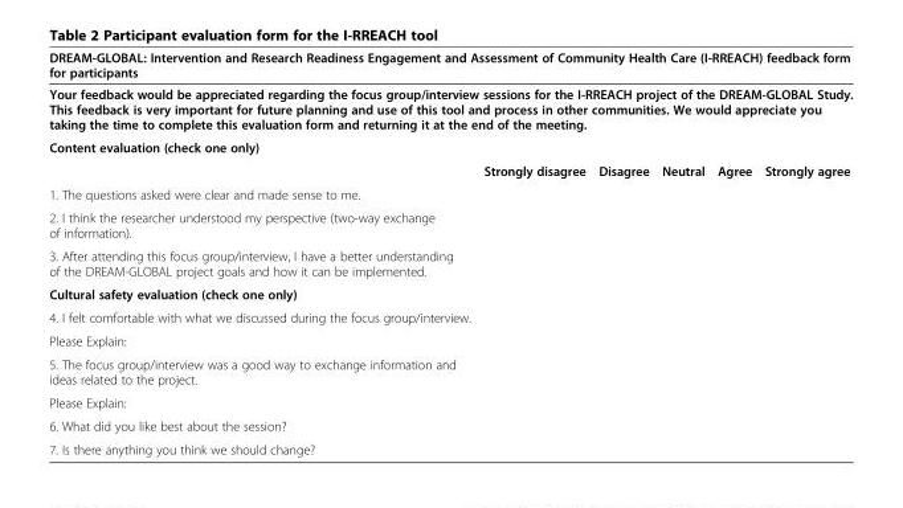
<table><thead><tr><td rowspan="3" colspan="6">DREAM-GLOBAL: Intervention and Research Readiness Engagement and Assessment of Community Health Care (I-RREACH) feedback form for participants Your feedback would be appreciated regarding the focus group/interview sessions for the I-RREACH project of the DREAM-GLOBAL Study. This feedback is very important for future planning and use of this tool and process in other communities. We would appreciate you taking the time to complete this evaluation form and returning it at the end of the meeting. Content evaluation (check one only)</td></tr><tr></tr><tr></tr><tr><td></td><td>Strongly disagree</td><td>Disagree</td><td>Neutral</td><td>Agree</td><td>Strongly agree</td></tr></thead><tbody><tr><td colspan="6">1. The questions asked were clear and made sense to me.</td></tr><tr><td colspan="6">2. I think the researcher understood my perspective (two-way exchange of information).</td></tr><tr><td colspan="6">3. After attending this focus group/interview, I have a better understanding of the DREAM-GLOBAL project goals and how it can be implemented.</td></tr><tr><td colspan="6">Cultural safety evaluation (check one only)</td></tr><tr><td colspan="6">4. I felt comfortable with what we discussed during the focus group/interview.</td></tr><tr><td colspan="6">Please Explain:</td></tr><tr><td colspan="6">5. The focus group/interview was a good way to exchange information and ideas related to the project.</td></tr><tr><td colspan="6">Please Explain:</td></tr><tr><td colspan="6">6. What did you like best about the session?</td></tr><tr><td colspan="6">7. Is there anything you think we should change?</td></tr></tbody></table>